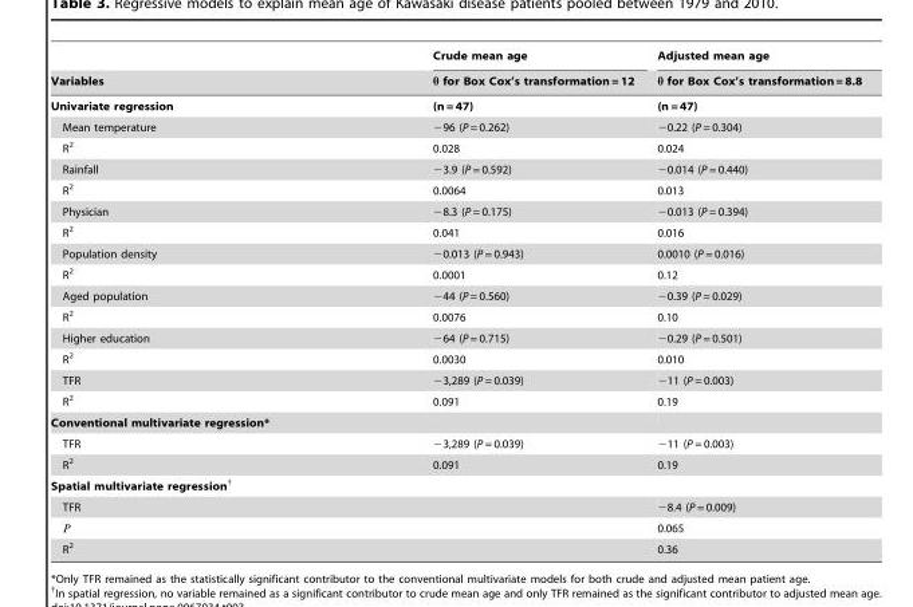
<table><thead><tr><td rowspan="2">Variables</td><td rowspan="2">Crude mean age θ for Box Cox’s transformation = 12</td><td rowspan="2">Adjusted mean age θ for Box Cox’s transformation = 8.8</td></tr><tr></tr></thead><tbody><tr><td>Univariate regression</td><td>(n = 47)</td><td>(n = 47)</td></tr><tr><td>Mean temperature</td><td>−96 (P = 0.262)</td><td>−0.22 (P = 0.304)</td></tr><tr><td>R<sup>2</sup></td><td>0.028</td><td>0.024</td></tr><tr><td>Rainfall</td><td>−3.9 (P = 0.592)</td><td>−0.014 (P = 0.440)</td></tr><tr><td>R<sup>2</sup></td><td>0.0064</td><td>0.013</td></tr><tr><td>Physician</td><td>−8.3 (P = 0.175)</td><td>−0.013 (P = 0.394)</td></tr><tr><td>R<sup>2</sup></td><td>0.041</td><td>0.016</td></tr><tr><td>Population density</td><td>−0.013 (P = 0.943)</td><td>0.0010 (P = 0.016)</td></tr><tr><td>R<sup>2</sup></td><td>0.0001</td><td>0.12</td></tr><tr><td>Aged population</td><td>−44 (P = 0.560)</td><td>−0.39 (P = 0.029)</td></tr><tr><td>R<sup>2</sup></td><td>0.0076</td><td>0.10</td></tr><tr><td>Higher education</td><td>−64 (P = 0.715)</td><td>−0.29 (P = 0.501)</td></tr><tr><td>R<sup>2</sup></td><td>0.0030</td><td>0.010</td></tr><tr><td>TFR</td><td>−3,289 (P = 0.039)</td><td>−11 (P = 0.003)</td></tr><tr><td>R<sup>2</sup></td><td>0.091</td><td>0.19</td></tr><tr><td colspan="3">Conventional multivariate regression*</td></tr><tr><td>TFR</td><td>−3,289 (P = 0.039)</td><td>−11 (P = 0.003)</td></tr><tr><td>R<sup>2</sup></td><td>0.091</td><td>0.19</td></tr><tr><td colspan="3">Spatial multivariate regression†</td></tr><tr><td>TFR</td><td></td><td>−8.4 (P = 0.009)</td></tr><tr><td>Ρ</td><td></td><td>0.065</td></tr><tr><td>R<sup>2</sup></td><td></td><td>0.36</td></tr></tbody></table>